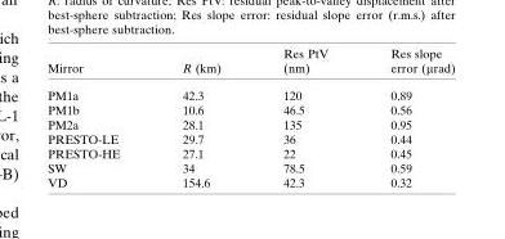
<table><thead><tr><td>Mirror</td><td>R (km)</td><td>Res PtV (nm)</td><td>Res slope error (mrad)</td></tr></thead><tbody><tr><td>PM1a</td><td>42.3</td><td>120</td><td>0.89</td></tr><tr><td>PM1b</td><td>10.6</td><td>46.5</td><td>0.56</td></tr><tr><td>PM2a</td><td>28.1</td><td>135</td><td>0.95</td></tr><tr><td>PRESTO-LE</td><td>29.7</td><td>36</td><td>0.44</td></tr><tr><td>PRESTO-HE</td><td>27.1</td><td>22</td><td>0.45</td></tr><tr><td>SW</td><td>34</td><td>78.5</td><td>0.59</td></tr><tr><td>VD</td><td>154.6</td><td>42.3</td><td>0.32</td></tr></tbody></table>